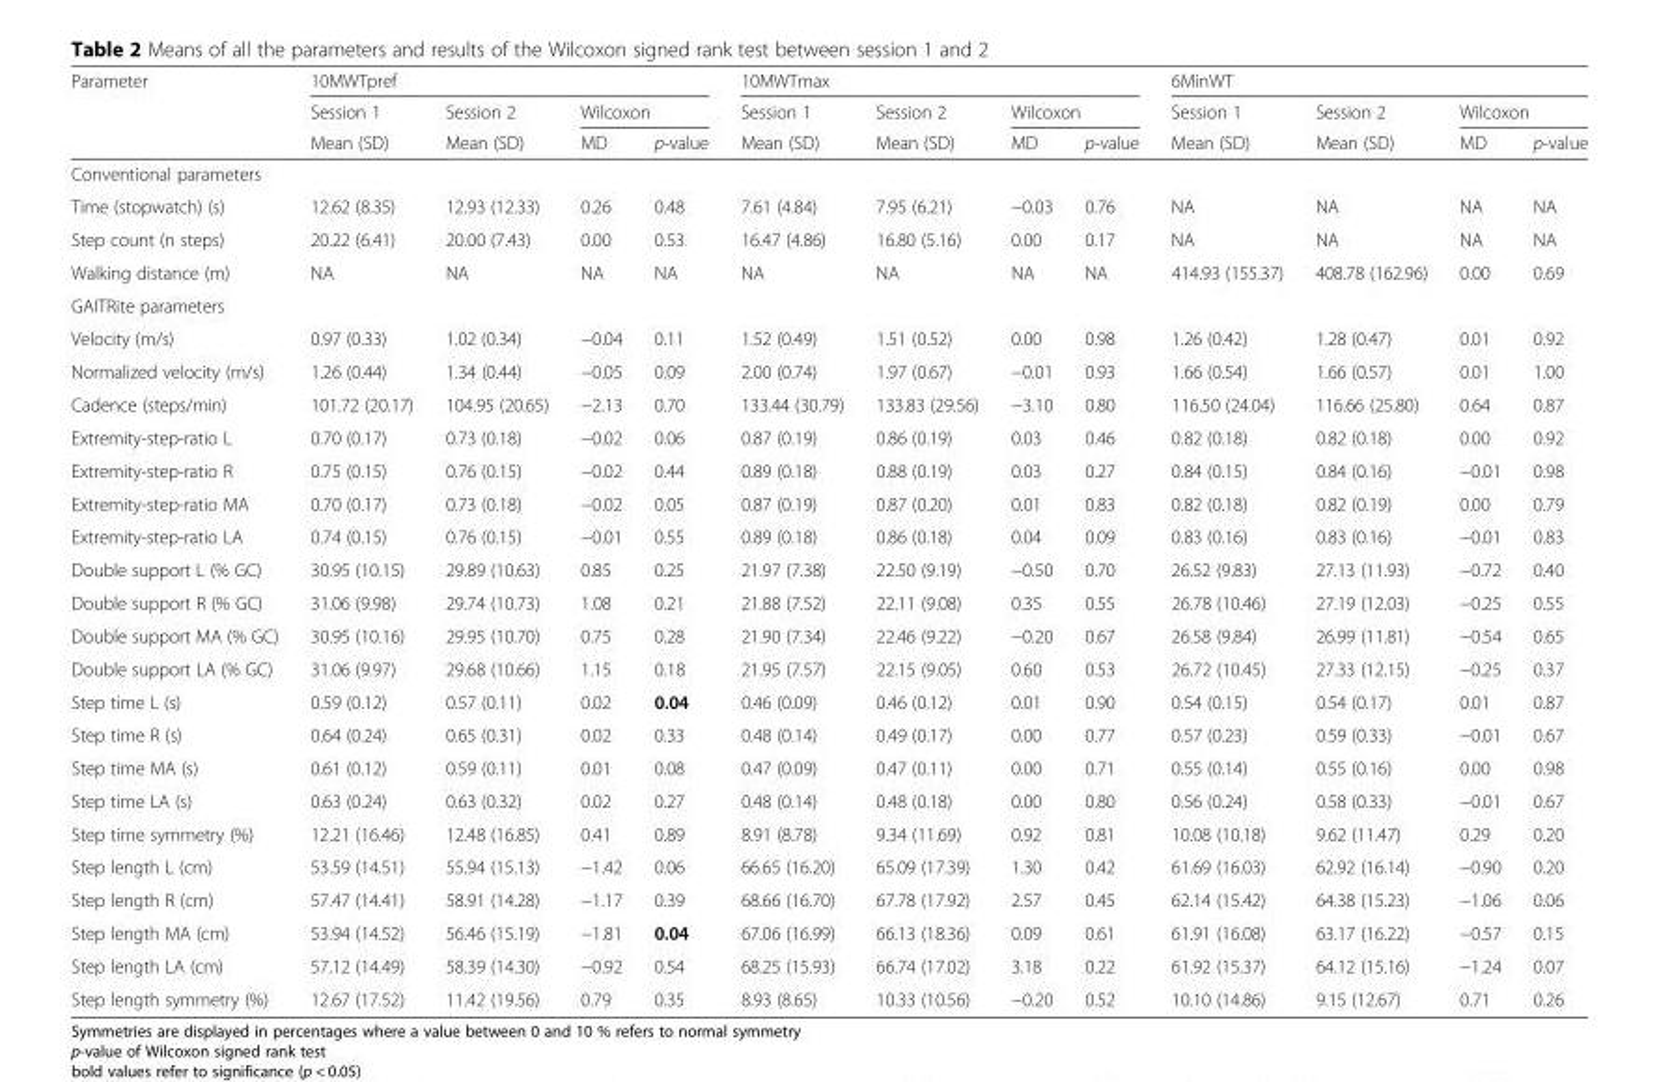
<table><thead><tr><td rowspan="3">Parameter</td><td colspan="4">10MWTpref</td><td colspan="4">10MWTmax</td><td colspan="4">6MinWT</td></tr><tr><td rowspan="2">Session 1 Mean (SD)</td><td rowspan="2">Session 2 Mean (SD)</td><td colspan="2">Wilcoxon</td><td rowspan="2">Session 1 Mean (SD)</td><td rowspan="2">Session 2 Mean (SD)</td><td colspan="2">Wilcoxon</td><td rowspan="2">Session 1 Mean (SD)</td><td rowspan="2">Session 2 Mean (SD)</td><td colspan="2">Wilcoxon</td></tr><tr><td>MD</td><td>p-value</td><td>MD</td><td>p-value</td><td>MD</td><td>p-value</td></tr></thead><tbody><tr><td colspan="13">Conventional parameters</td></tr><tr><td>Time (stopwatch) (s)</td><td>12.62 (8.35)</td><td>12.93 (12.33)</td><td>0.26</td><td>0.48</td><td>7.61 (4.84)</td><td>7.95 (6.21)</td><td>−0.03</td><td>0.76</td><td>NA</td><td>NA</td><td>NA</td><td>NA</td></tr><tr><td>Step count (n steps)</td><td>20.22 (6.41)</td><td>20.00 (7.43)</td><td>0.00</td><td>0.53</td><td>16.47 (4.86)</td><td>16.80 (5.16)</td><td>0.00</td><td>0.17</td><td>NA</td><td>NA</td><td>NA</td><td>NA</td></tr><tr><td>Walking distance (m)</td><td>NA</td><td>NA</td><td>NA</td><td>NA</td><td>NA</td><td>NA</td><td>NA</td><td>NA</td><td>414.93 (155.37)</td><td>408.78 (162.96)</td><td>0.00</td><td>0.69</td></tr><tr><td colspan="13">GAITRite parameters</td></tr><tr><td>Velocity (m/s)</td><td>0.97 (0.33)</td><td>1.02 (0.34)</td><td>−0.04</td><td>0.11</td><td>1.52 (0.49)</td><td>1.51 (0.52)</td><td>0.00</td><td>0.98</td><td>1.26 (0.42)</td><td>1.28 (0.47)</td><td>0.01</td><td>0.92</td></tr><tr><td>Normalized velocity (m/s)</td><td>1.26 (0.44)</td><td>1.34 (0.44)</td><td>−0.05</td><td>0.09</td><td>2.00 (0.74)</td><td>1.97 (0.67)</td><td>−0.01</td><td>0.93</td><td>1.66 (0.54)</td><td>1.66 (0.57)</td><td>0.01</td><td>1.00</td></tr><tr><td>Cadence (steps/min)</td><td>101.72 (20.17)</td><td>104.95 (20.65)</td><td>−2.13</td><td>0.70</td><td>133.44 (30.79)</td><td>133.83 (29.56)</td><td>−3.10</td><td>0.80</td><td>116.50 (24.04)</td><td>116.66 (25.80)</td><td>0.64</td><td>0.87</td></tr><tr><td>Extremity-step-ratio L</td><td>0.70 (0.17)</td><td>0.73 (0.18)</td><td>−0.02</td><td>0.06</td><td>0.87 (0.19)</td><td>0.86 (0.19)</td><td>0.03</td><td>0.46</td><td>0.82 (0.18)</td><td>0.82 (0.18)</td><td>0.00</td><td>0.92</td></tr><tr><td>Extremity-step-ratio R</td><td>0.75 (0.15)</td><td>0.76 (0.15)</td><td>−0.02</td><td>0.44</td><td>0.89 (0.18)</td><td>0.88 (0.19)</td><td>0.03</td><td>0.27</td><td>0.84 (0.15)</td><td>0.84 (0.16)</td><td>−0.01</td><td>0.98</td></tr><tr><td>Extremity-step-ratio MA</td><td>0.70 (0.17)</td><td>0.73 (0.18)</td><td>−0.02</td><td>0.05</td><td>0.87 (0.19)</td><td>0.87 (0.20)</td><td>0.01</td><td>0.83</td><td>0.82 (0.18)</td><td>0.82 (0.19)</td><td>0.00</td><td>0.79</td></tr><tr><td>Extremity-step-ratio LA</td><td>0.74 (0.15)</td><td>0.76 (0.15)</td><td>−0.01</td><td>0.55</td><td>0.89 (0.18)</td><td>0.86 (0.18)</td><td>0.04</td><td>0.09</td><td>0.83 (0.16)</td><td>0.83 (0.16)</td><td>−0.01</td><td>0.83</td></tr><tr><td>Double support L (% GC)</td><td>30.95 (10.15)</td><td>29.89 (10.63)</td><td>0.85</td><td>0.25</td><td>21.97 (7.38)</td><td>22.50 (9.19)</td><td>−0.50</td><td>0.70</td><td>26.52 (9.83)</td><td>27.13 (11.93)</td><td>−0.72</td><td>0.40</td></tr><tr><td>Double support R (% GC)</td><td>31.06 (9.98)</td><td>29.74 (10.73)</td><td>1.08</td><td>0.21</td><td>21.88 (7.52)</td><td>22.11 (9.08)</td><td>0.35</td><td>0.55</td><td>26.78 (10.46)</td><td>27.19 (12.03)</td><td>−0.25</td><td>0.55</td></tr><tr><td>Double support MA (% GC)</td><td>30.95 (10.16)</td><td>29.95 (10.70)</td><td>0.75</td><td>0.28</td><td>21.90 (7.34)</td><td>22.46 (9.22)</td><td>−0.20</td><td>0.67</td><td>26.58 (9.84)</td><td>26.99 (11.81)</td><td>−0.54</td><td>0.65</td></tr><tr><td>Double support LA (% GC)</td><td>31.06 (9.97)</td><td>29.68 (10.66)</td><td>1.15</td><td>0.18</td><td>21.95 (7.57)</td><td>22.15 (9.05)</td><td>0.60</td><td>0.53</td><td>26.72 (10.45)</td><td>27.33 (12.15)</td><td>−0.25</td><td>0.37</td></tr><tr><td>Step time L (s)</td><td>0.59 (0.12)</td><td>0.57 (0.11)</td><td>0.02</td><td>0.04</td><td>0.46 (0.09)</td><td>0.46 (0.12)</td><td>0.01</td><td>0.90</td><td>0.54 (0.15)</td><td>0.54 (0.17)</td><td>0.01</td><td>0.87</td></tr><tr><td>Step time R (s)</td><td>0.64 (0.24)</td><td>0.65 (0.31)</td><td>0.02</td><td>0.33</td><td>0.48 (0.14)</td><td>0.49 (0.17)</td><td>0.00</td><td>0.77</td><td>0.57 (0.23)</td><td>0.59 (0.33)</td><td>−0.01</td><td>0.67</td></tr><tr><td>Step time MA (s)</td><td>0.61 (0.12)</td><td>0.59 (0.11)</td><td>0.01</td><td>0.08</td><td>0.47 (0.09)</td><td>0.47 (0.11)</td><td>0.00</td><td>0.71</td><td>0.55 (0.14)</td><td>0.55 (0.16)</td><td>0.00</td><td>0.98</td></tr><tr><td>Step time LA (s)</td><td>0.63 (0.24)</td><td>0.63 (0.32)</td><td>0.02</td><td>0.27</td><td>0.48 (0.14)</td><td>0.48 (0.18)</td><td>0.00</td><td>0.80</td><td>0.56 (0.24)</td><td>0.58 (0.33)</td><td>−0.01</td><td>0.67</td></tr><tr><td>Step time symmetry (%)</td><td>12.21 (16.46)</td><td>12.48 (16.85)</td><td>0.41</td><td>0.89</td><td>8.91 (8.78)</td><td>9.34 (11.69)</td><td>0.92</td><td>0.81</td><td>10.08 (10.18)</td><td>9.62 (11.47)</td><td>0.29</td><td>0.20</td></tr><tr><td>Step length L (cm)</td><td>53.59 (14.51)</td><td>55.94 (15.13)</td><td>−1.42</td><td>0.06</td><td>66.65 (16.20)</td><td>65.09 (17.39)</td><td>1.30</td><td>0.42</td><td>61.69 (16.03)</td><td>62.92 (16.14)</td><td>−0.90</td><td>0.20</td></tr><tr><td>Step length R (cm)</td><td>57.47 (14.41)</td><td>58.91 (14.28)</td><td>−1.17</td><td>0.39</td><td>68.66 (16.70)</td><td>67.78 (17.92)</td><td>2.57</td><td>0.45</td><td>62.14 (15.42)</td><td>64.38 (15.23)</td><td>−1.06</td><td>0.06</td></tr><tr><td>Step length MA (cm)</td><td>53.94 (14.52)</td><td>56.46 (15.19)</td><td>−1.81</td><td>0.04</td><td>67.06 (16.99)</td><td>66.13 (18.36)</td><td>0.09</td><td>0.61</td><td>61.91 (16.08)</td><td>63.17 (16.22)</td><td>−0.57</td><td>0.15</td></tr><tr><td>Step length LA (cm)</td><td>57.12 (14.49)</td><td>58.39 (14.30)</td><td>−0.92</td><td>0.54</td><td>68.25 (15.93)</td><td>66.74 (17.02)</td><td>3.18</td><td>0.22</td><td>61.92 (15.37)</td><td>64.12 (15.16)</td><td>−1.24</td><td>0.07</td></tr><tr><td>Step length symmetry (%)</td><td>12.67 (17.52)</td><td>11.42 (19.56)</td><td>0.79</td><td>0.35</td><td>8.93 (8.65)</td><td>10.33 (10.56)</td><td>−0.20</td><td>0.52</td><td>10.10 (14.86)</td><td>9.15 (12.67)</td><td>0.71</td><td>0.26</td></tr></tbody></table>